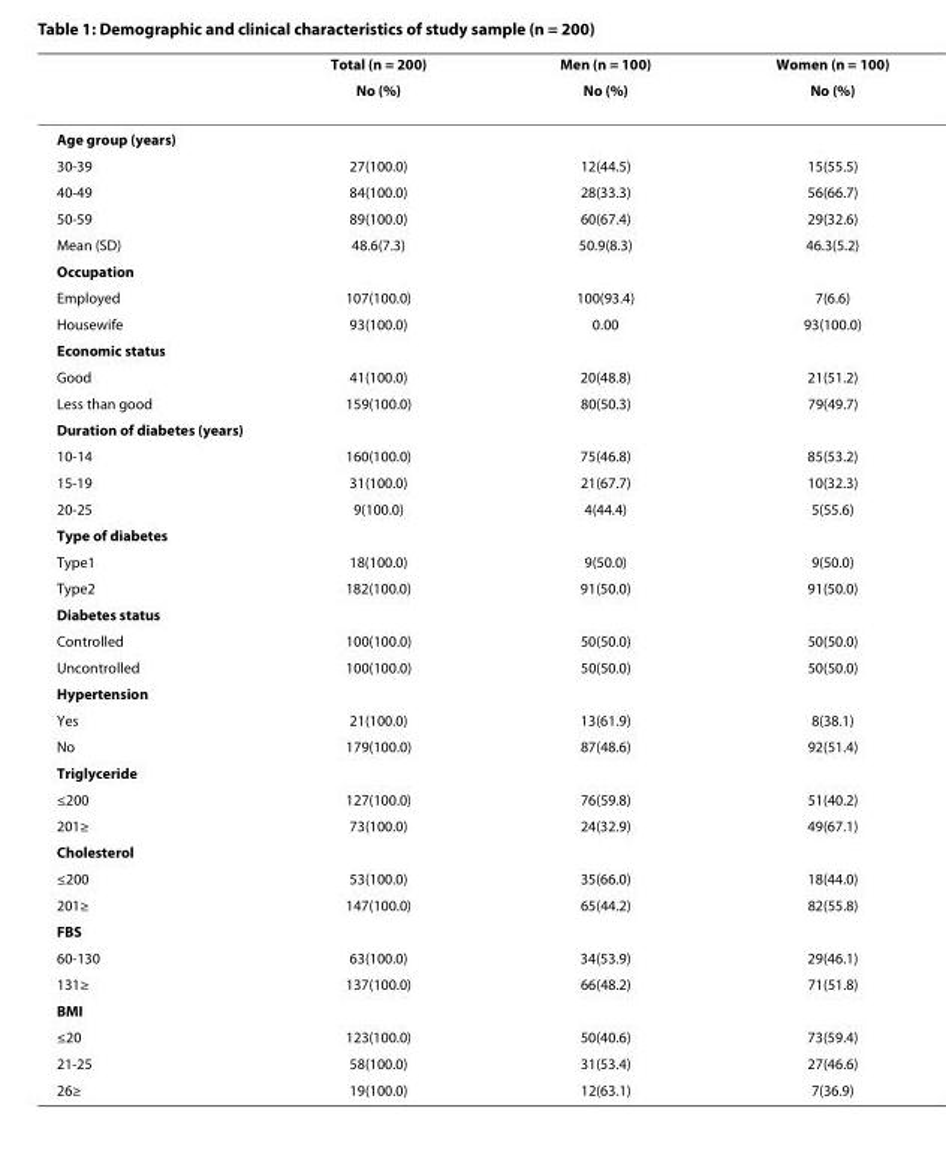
<table><thead><tr><td rowspan="2"></td><td rowspan="2">Total (n = 200) No (%)</td><td rowspan="2">Men (n = 100) No (%)</td><td rowspan="2">Women (n = 100) No (%)</td></tr><tr></tr></thead><tbody><tr><td colspan="4">Age group (years)</td></tr><tr><td>30-39</td><td>27(100.0)</td><td>12(44.5)</td><td>15(55.5)</td></tr><tr><td>40-49</td><td>84(100.0)</td><td>28(33.3)</td><td>56(66.7)</td></tr><tr><td>50-59</td><td>89(100.0)</td><td>60(67.4)</td><td>29(32.6)</td></tr><tr><td>Mean (SD)</td><td>48.6(7.3)</td><td>50.9(8.3)</td><td>46.3(5.2)</td></tr><tr><td colspan="4">Occupation</td></tr><tr><td>Employed</td><td>107(100.0)</td><td>100(93.4)</td><td>7(6.6)</td></tr><tr><td>Housewife</td><td>93(100.0)</td><td>0.00</td><td>93(100.0)</td></tr><tr><td colspan="4">Economic status</td></tr><tr><td>Good</td><td>41(100.0)</td><td>20(48.8)</td><td>21(51.2)</td></tr><tr><td>Less than good</td><td>159(100.0)</td><td>80(50.3)</td><td>79(49.7)</td></tr><tr><td colspan="4">Duration of diabetes (years)</td></tr><tr><td>10-14</td><td>160(100.0)</td><td>75(46.8)</td><td>85(53.2)</td></tr><tr><td>15-19</td><td>31(100.0)</td><td>21(67.7)</td><td>10(32.3)</td></tr><tr><td>20-25</td><td>9(100.0)</td><td>4(44.4)</td><td>5(55.6)</td></tr><tr><td colspan="4">Type of diabetes</td></tr><tr><td>Type1</td><td>18(100.0)</td><td>9(50.0)</td><td>9(50.0)</td></tr><tr><td>Type2</td><td>182(100.0)</td><td>91(50.0)</td><td>91(50.0)</td></tr><tr><td colspan="4">Diabetes status</td></tr><tr><td>Controlled</td><td>100(100.0)</td><td>50(50.0)</td><td>50(50.0)</td></tr><tr><td>Uncontrolled</td><td>100(100.0)</td><td>50(50.0)</td><td>50(50.0)</td></tr><tr><td colspan="4">Hypertension</td></tr><tr><td>Yes</td><td>21(100.0)</td><td>13(61.9)</td><td>8(38.1)</td></tr><tr><td>No</td><td>179(100.0)</td><td>87(48.6)</td><td>92(51.4)</td></tr><tr><td colspan="4">Triglyceride</td></tr><tr><td>≤200</td><td>127(100.0)</td><td>76(59.8)</td><td>51(40.2)</td></tr><tr><td>201≥</td><td>73(100.0)</td><td>24(32.9)</td><td>49(67.1)</td></tr><tr><td colspan="4">Cholesterol</td></tr><tr><td>≤200</td><td>53(100.0)</td><td>35(66.0)</td><td>18(44.0)</td></tr><tr><td>201≥</td><td>147(100.0)</td><td>65(44.2)</td><td>82(55.8)</td></tr><tr><td colspan="4">FBS</td></tr><tr><td>60-130</td><td>63(100.0)</td><td>34(53.9)</td><td>29(46.1)</td></tr><tr><td>131≥</td><td>137(100.0)</td><td>66(48.2)</td><td>71(51.8)</td></tr><tr><td colspan="4">BMI</td></tr><tr><td>≤20</td><td>123(100.0)</td><td>50(40.6)</td><td>73(59.4)</td></tr><tr><td>21-25</td><td>58(100.0)</td><td>31(53.4)</td><td>27(46.6)</td></tr><tr><td>26≥</td><td>19(100.0)</td><td>12(63.1)</td><td>7(36.9)</td></tr></tbody></table>